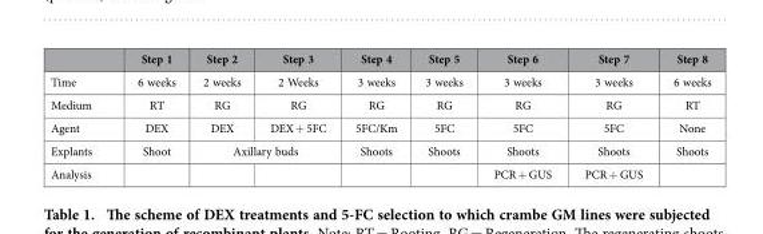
<table><thead><tr><td></td><td>Step 1</td><td>Step 2</td><td>Step 3</td><td>Step 4</td><td>Step 5</td><td>Step 6</td><td>Step 7</td><td>Step 8</td></tr></thead><tbody><tr><td>Time</td><td>6 weeks</td><td>2 weeks</td><td>2 Weeks</td><td>3 weeks</td><td>3 weeks</td><td>3 weeks</td><td>3 weeks</td><td>6 weeks</td></tr><tr><td>Medium</td><td>RT</td><td>RG</td><td>RG</td><td>RG</td><td>RG</td><td>RG</td><td>RG</td><td>RT</td></tr><tr><td>Agent</td><td>DEX</td><td>DEX</td><td>DEX + 5FC</td><td>5FC/Km</td><td>5FC</td><td>5FC</td><td>5FC</td><td>None</td></tr><tr><td>Explants</td><td>Shoot</td><td colspan="2">Axillary buds</td><td>Shoots</td><td>Shoots</td><td>Shoots</td><td>Shoots</td><td>Shoots</td></tr><tr><td>Analysis</td><td></td><td></td><td></td><td></td><td></td><td>PCR + GUS</td><td>PCR + GUS</td><td></td></tr></tbody></table>